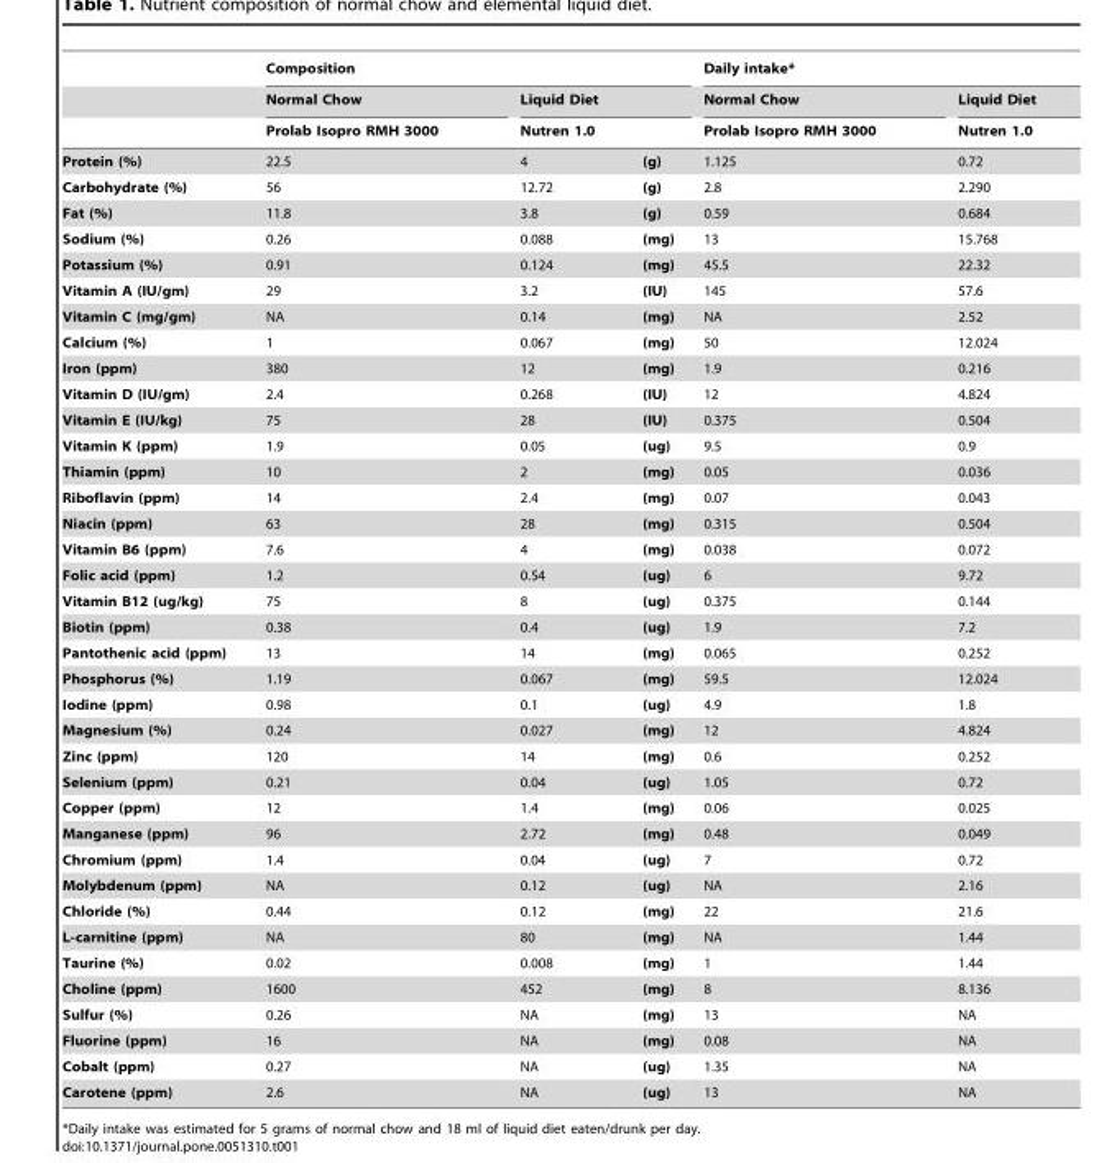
<table><thead><tr><td rowspan="4">Protein (%)</td><td colspan="3">Composition</td><td colspan="2">Daily intake*</td></tr><tr><td rowspan="3">Normal Chow Prolab Isopro RMH 3000 22.5</td><td rowspan="2" colspan="2">Liquid Diet Nutren 1.0</td><td rowspan="3">Normal Chow Prolab Isopro RMH 3000 1.125</td><td rowspan="3">Liquid Diet Nutren 1.0 0.72</td></tr><tr></tr><tr><td>4</td><td>(g)</td></tr></thead><tbody><tr><td>Carbohydrate (%)</td><td>56</td><td>12.72</td><td>(g)</td><td>2.8</td><td>2.290</td></tr><tr><td>Fat (%)</td><td>11.8</td><td>3.8</td><td>(g)</td><td>0.59</td><td>0.684</td></tr><tr><td>Sodium (%)</td><td>0.26</td><td>0.088</td><td>(mg)</td><td>13</td><td>15.768</td></tr><tr><td>Potassium (%)</td><td>0.91</td><td>0.124</td><td>(mg)</td><td>45.5</td><td>22.32</td></tr><tr><td>Vitamin A (IU/gm)</td><td>29</td><td>3.2</td><td>(IU)</td><td>145</td><td>57.6</td></tr><tr><td>Vitamin C (mg/gm)</td><td>NA</td><td>0.14</td><td>(mg)</td><td>NA</td><td>2.52</td></tr><tr><td>Calcium (%)</td><td>1</td><td>0.067</td><td>(mg)</td><td>50</td><td>12.024</td></tr><tr><td>Iron (ppm)</td><td>380</td><td>12</td><td>(mg)</td><td>1.9</td><td>0.216</td></tr><tr><td>Vitamin D (IU/gm)</td><td>2.4</td><td>0.268</td><td>(IU)</td><td>12</td><td>4.824</td></tr><tr><td>Vitamin E (IU/kg)</td><td>75</td><td>28</td><td>(IU)</td><td>0.375</td><td>0.504</td></tr><tr><td>Vitamin K (ppm)</td><td>1.9</td><td>0.05</td><td>(ug)</td><td>9.5</td><td>0.9</td></tr><tr><td>Thiamin (ppm)</td><td>10</td><td>2</td><td>(mg)</td><td>0.05</td><td>0.036</td></tr><tr><td>Riboflavin (ppm)</td><td>14</td><td>2.4</td><td>(mg)</td><td>0.07</td><td>0.043</td></tr><tr><td>Niacin (ppm)</td><td>63</td><td>28</td><td>(mg)</td><td>0.315</td><td>0.504</td></tr><tr><td>Vitamin B6 (ppm)</td><td>7.6</td><td>4</td><td>(mg)</td><td>0.038</td><td>0.072</td></tr><tr><td>Folic acid (ppm)</td><td>1.2</td><td>0.54</td><td>(ug)</td><td>6</td><td>9.72</td></tr><tr><td>Vitamin B12 (ug/kg)</td><td>75</td><td>8</td><td>(ug)</td><td>0.375</td><td>0.144</td></tr><tr><td>Biotin (ppm)</td><td>0.38</td><td>0.4</td><td>(ug)</td><td>1.9</td><td>7.2</td></tr><tr><td>Pantothenic acid (ppm)</td><td>13</td><td>14</td><td>(mg)</td><td>0.065</td><td>0.252</td></tr><tr><td>Phosphorus (%)</td><td>1.19</td><td>0.067</td><td>(mg)</td><td>59.5</td><td>12.024</td></tr><tr><td>Iodine (ppm)</td><td>0.98</td><td>0.1</td><td>(ug)</td><td>4.9</td><td>1.8</td></tr><tr><td>Magnesium (%)</td><td>0.24</td><td>0.027</td><td>(mg)</td><td>12</td><td>4.824</td></tr><tr><td>Zinc (ppm)</td><td>120</td><td>14</td><td>(mg)</td><td>0.6</td><td>0.252</td></tr><tr><td>Selenium (ppm)</td><td>0.21</td><td>0.04</td><td>(ug)</td><td>1.05</td><td>0.72</td></tr><tr><td>Copper (ppm)</td><td>12</td><td>1.4</td><td>(mg)</td><td>0.06</td><td>0.025</td></tr><tr><td>Manganese (ppm)</td><td>96</td><td>2.72</td><td>(mg)</td><td>0.48</td><td>0.049</td></tr><tr><td>Chromium (ppm)</td><td>1.4</td><td>0.04</td><td>(ug)</td><td>7</td><td>0.72</td></tr><tr><td>Molybdenum (ppm)</td><td>NA</td><td>0.12</td><td>(ug)</td><td>NA</td><td>2.16</td></tr><tr><td>Chloride (%)</td><td>0.44</td><td>0.12</td><td>(mg)</td><td>22</td><td>21.6</td></tr><tr><td>L-carnitine (ppm)</td><td>NA</td><td>80</td><td>(mg)</td><td>NA</td><td>1.44</td></tr><tr><td>Taurine (%)</td><td>0.02</td><td>0.008</td><td>(mg)</td><td>1</td><td>1.44</td></tr><tr><td>Choline (ppm)</td><td>1600</td><td>452</td><td>(mg)</td><td>8</td><td>8.136</td></tr><tr><td>Sulfur (%)</td><td>0.26</td><td>NA</td><td>(mg)</td><td>13</td><td>NA</td></tr><tr><td>Fluorine (ppm)</td><td>16</td><td>NA</td><td>(mg)</td><td>0.08</td><td>NA</td></tr><tr><td>Cobalt (ppm)</td><td>0.27</td><td>NA</td><td>(ug)</td><td>1.35</td><td>NA</td></tr><tr><td>Carotene (ppm)</td><td>2.6</td><td>NA</td><td>(ug)</td><td>13</td><td>NA</td></tr></tbody></table>